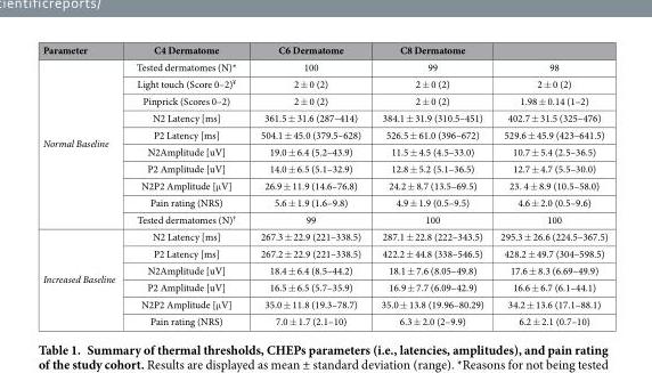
<table><thead><tr><td>Parameter</td><td>C4 Dermatome</td><td>C6 Dermatome</td><td>C8 Dermatome</td><td></td></tr></thead><tbody><tr><td rowspan="10">Normal Baseline</td><td>Tested dermatomes (N)*</td><td>100</td><td>99</td><td>98</td></tr><tr><td>Light touch (Score 0–2)<sup>¥</sup></td><td>2 ± 0 (2)</td><td>2 ± 0 (2)</td><td>2 ± 0 (2)</td></tr><tr><td>Pinprick (Scores 0–2)</td><td>2 ± 0 (2)</td><td>2 ± 0 (2)</td><td>1.98 ± 0.14 (1–2)</td></tr><tr><td>N2 Latency [ms]</td><td>361.5 ± 31.6 (287–414)</td><td>384.1 ± 31.9 (310.5–451)</td><td>402.7 ± 31.5 (325–476)</td></tr><tr><td>P2 Latency [ms]</td><td>504.1 ± 45.0 (379.5–628)</td><td>526.5 ± 61.0 (396–672)</td><td>529.6 ± 45.9 (423–641.5)</td></tr><tr><td>N2Amplitude [uV]</td><td>19.0 ± 6.4 (5.2–43.9)</td><td>11.5 ± 4.5 (4.5–33.0)</td><td>10.7 ± 5.4 (2.5–36.5)</td></tr><tr><td>P2 Amplitude [uV]</td><td>14.0 ± 6.5 (5.1–32.9)</td><td>12.8 ± 5.2 (5.1–36.5)</td><td>12.7 ± 4.7 (5.5–30.0)</td></tr><tr><td>N2P2 Amplitude [μ V]</td><td>26.9 ± 11.9 (14.6–76.8)</td><td>24.2 ± 8.7 (13.5–69.5)</td><td>23. 4 ± 8.9 (10.5–58.0)</td></tr><tr><td>Pain rating (NRS)</td><td>5.6 ± 1.9 (1.6–9.8)</td><td>4.9 ± 1.9 (0.5–9.5)</td><td>4.6 ± 2.0 (0.5–9.6)</td></tr><tr><td>Tested dermatomes (N)<sup>†</sup></td><td>99</td><td>100</td><td>100</td></tr><tr><td rowspan="6">Increased Baseline</td><td>N2 Latency [ms]</td><td>267.3 ± 22.9 (221–338.5)</td><td>287.1 ± 22.8 (222–343.5)</td><td>295.3 ± 26.6 (224.5–367.5)</td></tr><tr><td>P2 Latency [ms]</td><td>267.2 ± 22.9 (221–338.5)</td><td>422.2 ± 44.8 (338–546.5)</td><td>428.2 ± 49.7 (304–598.5)</td></tr><tr><td>N2Amplitude [uV]</td><td>18.4 ± 6.4 (8.5–44.2)</td><td>18.1 ± 7.6 (8.05–49.8)</td><td>17.6 ± 8.3 (6.69–49.9)</td></tr><tr><td>P2 Amplitude [uV]</td><td>16.5 ± 6.5 (5.7–35.9)</td><td>16.9 ± 7.7 (6.09–42.9)</td><td>16.6 ± 6.7 (6.1–44.1)</td></tr><tr><td>N2P2 Amplitude [μ V]</td><td>35.0 ± 11.8 (19.3–78.7)</td><td>35.0 ± 13.8 (19.96–80.29)</td><td>34.2 ± 13.6 (17.1–88.1)</td></tr><tr><td>Pain rating (NRS)</td><td>7.0 ± 1.7 (2.1–10)</td><td>6.3 ± 2.0 (2–9.9)</td><td>6.2 ± 2.1 (0.7–10)</td></tr></tbody></table>